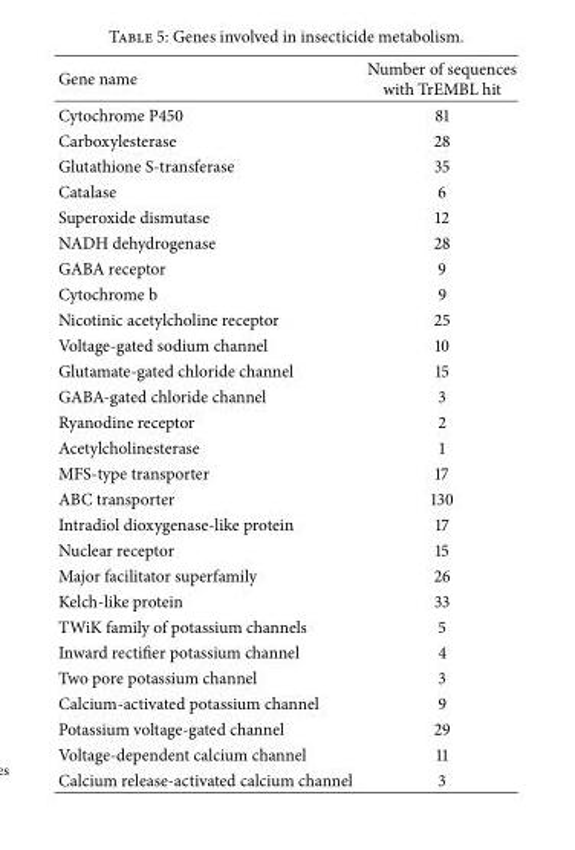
<table><thead><tr><td>Gene name</td><td>Number of sequences with TrEMBL hit</td></tr></thead><tbody><tr><td>Cytochrome P450</td><td>81</td></tr><tr><td>Carboxylesterase</td><td>28</td></tr><tr><td>Glutathione S-transferase</td><td>35</td></tr><tr><td>Catalase</td><td>6</td></tr><tr><td>Superoxide dismutase</td><td>12</td></tr><tr><td>NADH dehydrogenase</td><td>28</td></tr><tr><td>GABA receptor</td><td>9</td></tr><tr><td>Cytochrome b</td><td>9</td></tr><tr><td>Nicotinic acetylcholine receptor</td><td>25</td></tr><tr><td>Voltage-gated sodium channel</td><td>10</td></tr><tr><td>Glutamate-gated chloride channel</td><td>15</td></tr><tr><td>GABA-gated chloride channel</td><td>3</td></tr><tr><td>Ryanodine receptor</td><td>2</td></tr><tr><td>Acetylcholinesterase</td><td>1</td></tr><tr><td>MFS-type transporter</td><td>17</td></tr><tr><td>ABC transporter</td><td>130</td></tr><tr><td>Intradiol dioxygenase-like protein</td><td>17</td></tr><tr><td>Nuclear receptor</td><td>15</td></tr><tr><td>Major facilitator superfamily</td><td>26</td></tr><tr><td>Kelch-like protein</td><td>33</td></tr><tr><td>TWiK family of potassium channels</td><td>5</td></tr><tr><td>Inward rectifier potassium channel</td><td>4</td></tr><tr><td>Two pore potassium channel</td><td>3</td></tr><tr><td>Calcium-activated potassium channel</td><td>9</td></tr><tr><td>Potassium voltage-gated channel</td><td>29</td></tr><tr><td>Voltage-dependent calcium channel</td><td>11</td></tr><tr><td>Calcium release-activated calcium channel</td><td>3</td></tr></tbody></table>